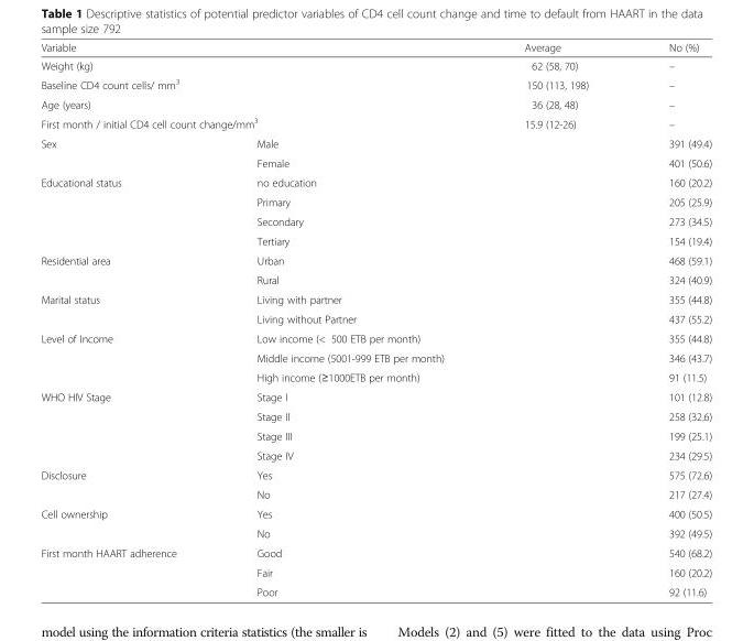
<table><thead><tr><td colspan="2">Variable</td><td>Average</td><td>No (%)</td></tr></thead><tbody><tr><td colspan="2">Weight (kg)</td><td>62 (58, 70)</td><td>–</td></tr><tr><td colspan="2">Baseline CD4 count cells/ mm<sup>3</sup></td><td>150 (113, 198)</td><td>–</td></tr><tr><td colspan="2">Age (years)</td><td>36 (28, 48)</td><td>–</td></tr><tr><td colspan="2">First month / initial CD4 cell count change/mm<sup>3</sup></td><td>15.9 (12-26)</td><td>–</td></tr><tr><td rowspan="2">Sex</td><td>Male</td><td></td><td>391 (49.4)</td></tr><tr><td>Female</td><td></td><td>401 (50.6)</td></tr><tr><td rowspan="4">Educational status</td><td>no education</td><td></td><td>160 (20.2)</td></tr><tr><td>Primary</td><td></td><td>205 (25.9)</td></tr><tr><td>Secondary</td><td></td><td>273 (34.5)</td></tr><tr><td>Tertiary</td><td></td><td>154 (19.4)</td></tr><tr><td rowspan="2">Residential area</td><td>Urban</td><td></td><td>468 (59.1)</td></tr><tr><td>Rural</td><td></td><td>324 (40.9)</td></tr><tr><td rowspan="2">Marital status</td><td>Living with partner</td><td></td><td>355 (44.8)</td></tr><tr><td>Living without Partner</td><td></td><td>437 (55.2)</td></tr><tr><td rowspan="3">Level of Income</td><td>Low income (&lt; 500 ETB per month)</td><td></td><td>355 (44.8)</td></tr><tr><td>Middle income (5001-999 ETB per month)</td><td></td><td>346 (43.7)</td></tr><tr><td>High income (≥1000ETB per month)</td><td></td><td>91 (11.5)</td></tr><tr><td rowspan="4">WHO HIV Stage</td><td>Stage I</td><td></td><td>101 (12.8)</td></tr><tr><td>Stage II</td><td></td><td>258 (32.6)</td></tr><tr><td>Stage III</td><td></td><td>199 (25.1)</td></tr><tr><td>Stage IV</td><td></td><td>234 (29.5)</td></tr><tr><td rowspan="2">Disclosure</td><td>Yes</td><td></td><td>575 (72.6)</td></tr><tr><td>No</td><td></td><td>217 (27.4)</td></tr><tr><td rowspan="2">Cell ownership</td><td>Yes</td><td></td><td>400 (50.5)</td></tr><tr><td>No</td><td></td><td>392 (49.5)</td></tr><tr><td rowspan="3">First month HAART adherence</td><td>Good</td><td></td><td>540 (68.2)</td></tr><tr><td>Fair</td><td></td><td>160 (20.2)</td></tr><tr><td>Poor</td><td></td><td>92 (11.6)</td></tr></tbody></table>